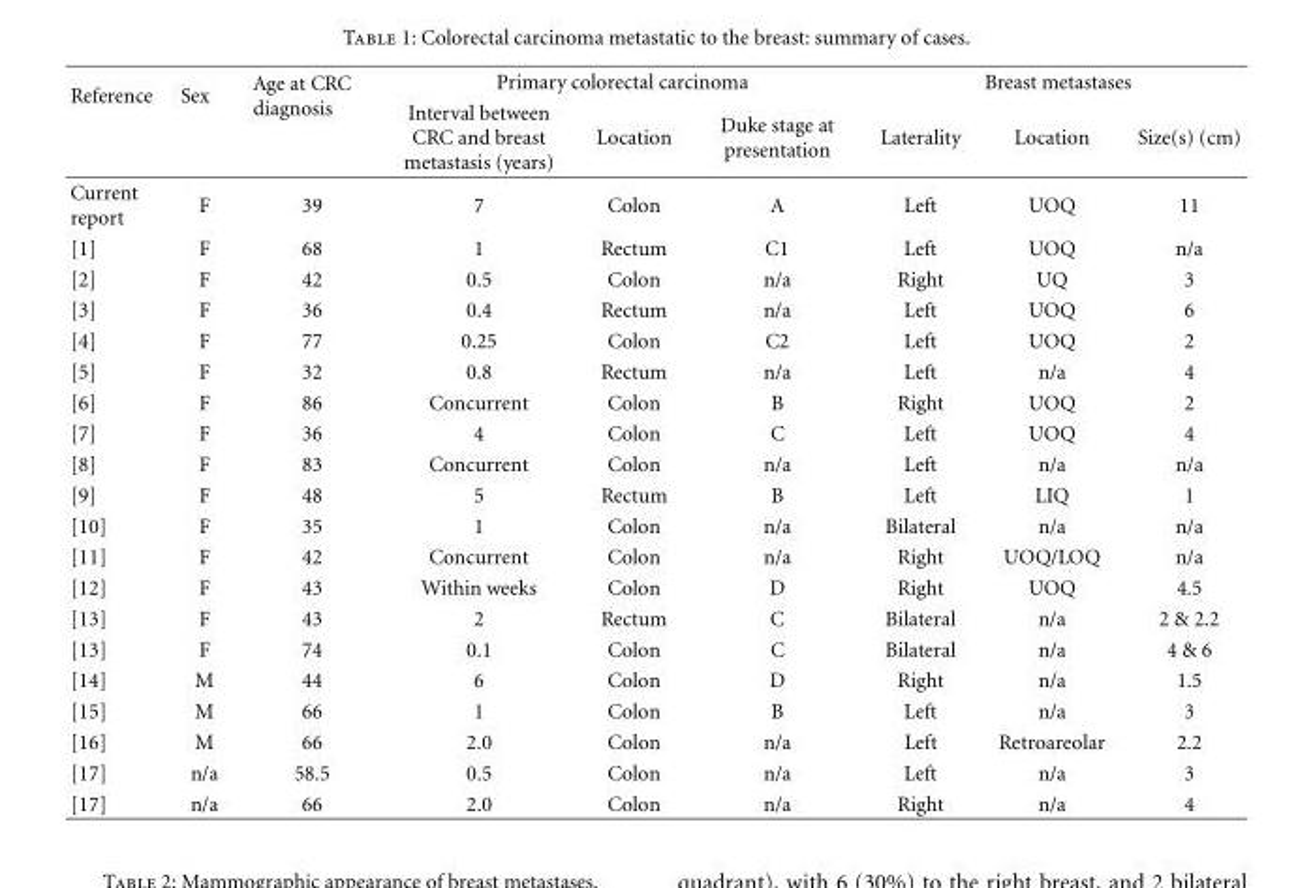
<table><thead><tr><td rowspan="2">Reference</td><td rowspan="2">Sex</td><td rowspan="2">Age at CRC diagnosis</td><td colspan="3">Primary colorectal carcinoma</td><td colspan="3">Breast metastases</td></tr><tr><td>Interval between CRC and breast metastasis (years)</td><td>Location</td><td>Duke stage at presentation</td><td>Laterality</td><td>Location</td><td>Size(s) (cm)</td></tr></thead><tbody><tr><td>Current report</td><td>F</td><td>39</td><td>7</td><td>Colon</td><td>A</td><td>Left</td><td>UOQ</td><td>11</td></tr><tr><td>[1]</td><td>F</td><td>68</td><td>1</td><td>Rectum</td><td>C1</td><td>Left</td><td>UOQ</td><td>n/a</td></tr><tr><td>[2]</td><td>F</td><td>42</td><td>0.5</td><td>Colon</td><td>n/a</td><td>Right</td><td>UQ</td><td>3</td></tr><tr><td>[3]</td><td>F</td><td>36</td><td>0.4</td><td>Rectum</td><td>n/a</td><td>Left</td><td>UOQ</td><td>6</td></tr><tr><td>[4]</td><td>F</td><td>77</td><td>0.25</td><td>Colon</td><td>C2</td><td>Left</td><td>UOQ</td><td>2</td></tr><tr><td>[5]</td><td>F</td><td>32</td><td>0.8</td><td>Rectum</td><td>n/a</td><td>Left</td><td>n/a</td><td>4</td></tr><tr><td>[6]</td><td>F</td><td>86</td><td>Concurrent</td><td>Colon</td><td>B</td><td>Right</td><td>UOQ</td><td>2</td></tr><tr><td>[7]</td><td>F</td><td>36</td><td>4</td><td>Colon</td><td>C</td><td>Left</td><td>UOQ</td><td>4</td></tr><tr><td>[8]</td><td>F</td><td>83</td><td>Concurrent</td><td>Colon</td><td>n/a</td><td>Left</td><td>n/a</td><td>n/a</td></tr><tr><td>[9]</td><td>F</td><td>48</td><td>5</td><td>Rectum</td><td>B</td><td>Left</td><td>LIQ</td><td>1</td></tr><tr><td>[10]</td><td>F</td><td>35</td><td>1</td><td>Colon</td><td>n/a</td><td>Bilateral</td><td>n/a</td><td>n/a</td></tr><tr><td>[11]</td><td>F</td><td>42</td><td>Concurrent</td><td>Colon</td><td>n/a</td><td>Right</td><td>UOQ/LOQ</td><td>n/a</td></tr><tr><td>[12]</td><td>F</td><td>43</td><td>Within weeks</td><td>Colon</td><td>D</td><td>Right</td><td>UOQ</td><td>4.5</td></tr><tr><td>[13]</td><td>F</td><td>43</td><td>2</td><td>Rectum</td><td>C</td><td>Bilateral</td><td>n/a</td><td>2 &amp; 2.2</td></tr><tr><td>[13]</td><td>F</td><td>74</td><td>0.1</td><td>Colon</td><td>C</td><td>Bilateral</td><td>n/a</td><td>4 &amp; 6</td></tr><tr><td>[14]</td><td>M</td><td>44</td><td>6</td><td>Colon</td><td>D</td><td>Right</td><td>n/a</td><td>1.5</td></tr><tr><td>[15]</td><td>M</td><td>66</td><td>1</td><td>Colon</td><td>B</td><td>Left</td><td>n/a</td><td>3</td></tr><tr><td>[16]</td><td>M</td><td>66</td><td>2.0</td><td>Colon</td><td>n/a</td><td>Left</td><td>Retroareolar</td><td>2.2</td></tr><tr><td>[17]</td><td>n/a</td><td>58.5</td><td>0.5</td><td>Colon</td><td>n/a</td><td>Left</td><td>n/a</td><td>3</td></tr><tr><td>[17]</td><td>n/a</td><td>66</td><td>2.0</td><td>Colon</td><td>n/a</td><td>Right</td><td>n/a</td><td>4</td></tr></tbody></table>